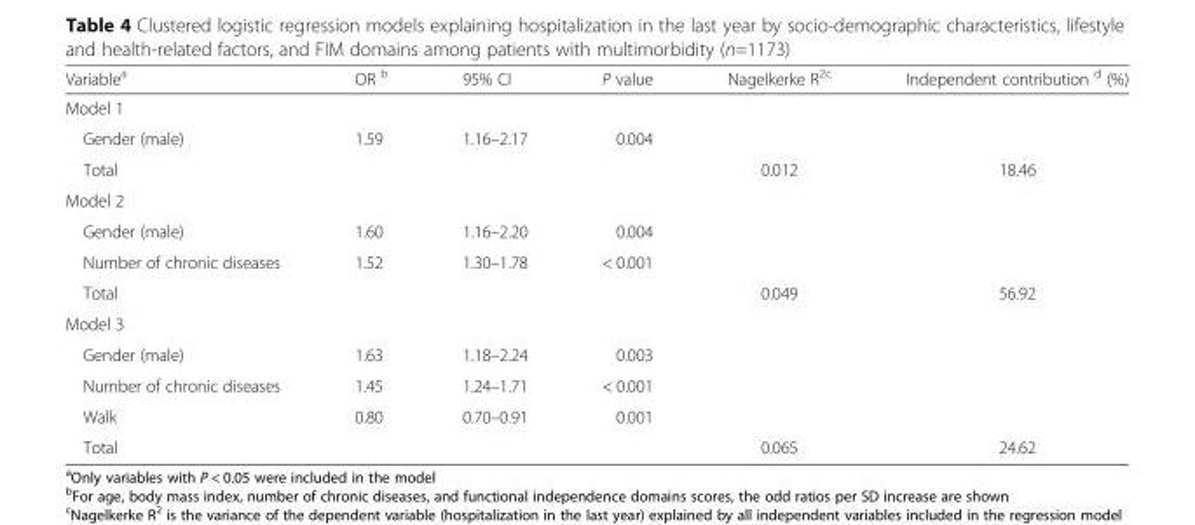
<table><thead><tr><td>Variable<sup>a</sup></td><td>OR <sup>b</sup></td><td>95% CI</td><td>P value</td><td>Nagelkerke R<sup>2c</sup></td><td>Independent contribution <sup>d</sup> (%)</td></tr></thead><tbody><tr><td colspan="6">Model 1</td></tr><tr><td>Gender (male)</td><td>1.59</td><td>1.16–2.17</td><td>0.004</td><td></td><td></td></tr><tr><td>Total</td><td></td><td></td><td></td><td>0.012</td><td>18.46</td></tr><tr><td colspan="6">Model 2</td></tr><tr><td>Gender (male)</td><td>1.60</td><td>1.16–2.20</td><td>0.004</td><td></td><td></td></tr><tr><td>Number of chronic diseases</td><td>1.52</td><td>1.30–1.78</td><td>&lt; 0.001</td><td></td><td></td></tr><tr><td>Total</td><td></td><td></td><td></td><td>0.049</td><td>56.92</td></tr><tr><td colspan="6">Model 3</td></tr><tr><td>Gender (male)</td><td>1.63</td><td>1.18–2.24</td><td>0.003</td><td></td><td></td></tr><tr><td>Number of chronic diseases</td><td>1.45</td><td>1.24–1.71</td><td>&lt; 0.001</td><td></td><td></td></tr><tr><td>Walk</td><td>0.80</td><td>0.70–0.91</td><td>0.001</td><td></td><td></td></tr><tr><td>Total</td><td></td><td></td><td></td><td>0.065</td><td>24.62</td></tr></tbody></table>